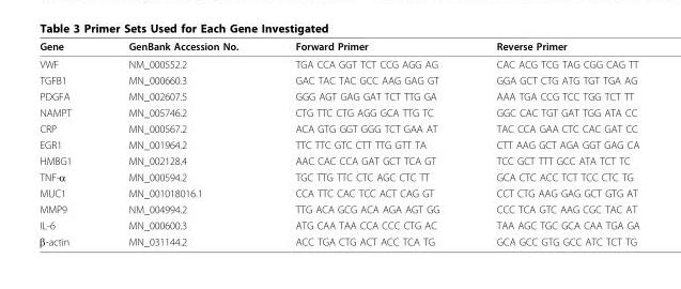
<table><thead><tr><td>Gene</td><td>GenBank Accession No.</td><td>Forward Primer</td><td>Reverse Primer</td></tr></thead><tbody><tr><td>VWF</td><td>NM_000552.2</td><td>TGA CCA GGT TCT CCG AGG AG</td><td>CAC ACG TCG TAG CGG CAG TT</td></tr><tr><td>TGFB1</td><td>MN_000660.3</td><td>GAC TAC TAC GCC AAG GAG GT</td><td>GGA GCT CTG ATG TGT TGA AG</td></tr><tr><td>PDGFA</td><td>MN_002607.5</td><td>GGG AGT GAG GAT TCT TTG GA</td><td>AAA TGA CCG TCC TGG TCT TT</td></tr><tr><td>NAMPT</td><td>MN_005746.2</td><td>CTG TTC CTG AGG GCA TTG TC</td><td>GGC CAC TGT GAT TGG ATA CC</td></tr><tr><td>CRP</td><td>MN_000567.2</td><td>ACA GTG GGT GGG TCT GAA AT</td><td>TAC CCA GAA CTC CAC GAT CC</td></tr><tr><td>EGR1</td><td>MN_001964.2</td><td>TTC TTC GTC CTT TTG GTT TA</td><td>CTT AAG GCT AGA GGT GAG CA</td></tr><tr><td>HMBG1</td><td>MN_002128.4</td><td>AAC CAC CCA GAT GCT TCA GT</td><td>TCC GCT TTT GCC ATA TCT TC</td></tr><tr><td>TNF-α</td><td>MN_000594.2</td><td>TGC TTG TTC CTC AGC CTC TT</td><td>GCA CTC ACC TCT TCC CTC TG</td></tr><tr><td>MUC1</td><td>MN_001018016.1</td><td>CCA TTC CAC TCC ACT CAG GT</td><td>CCT CTG AAG GAG GCT GTG AT</td></tr><tr><td>MMP9</td><td>NM_004994.2</td><td>TTG ACA GCG ACA AGA AGT GG</td><td>CCC TCA GTC AAG CGC TAC AT</td></tr><tr><td>IL-6</td><td>MN_000600.3</td><td>ATG CAA TAA CCA CCC CTG AC</td><td>TAA AGC TGC GCA CAA TGA GA</td></tr><tr><td>β-actin</td><td>MN_031144.2</td><td>ACC TGA CTG ACT ACC TCA TG</td><td>GCA GCC GTG GCC ATC TCT TG</td></tr></tbody></table>